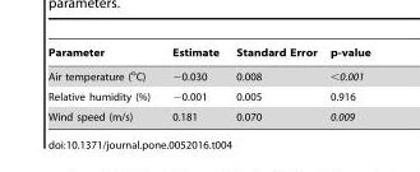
<table><thead><tr><td>Parameter</td><td>Estimate</td><td>Standard Error</td><td>p-value</td></tr></thead><tbody><tr><td>Air temperature (<sup>o</sup>C)</td><td>−0.030</td><td>0.008</td><td>&lt;0.001</td></tr><tr><td>Relative humidity (%)</td><td>−0.001</td><td>0.005</td><td>0.916</td></tr><tr><td>Wind speed (m/s)</td><td>0.181</td><td>0.070</td><td>0.009</td></tr></tbody></table>